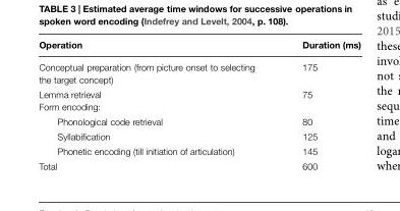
<table><thead><tr><td>Operation</td><td>Duration (ms)</td></tr></thead><tbody><tr><td>Conceptual preparation (from picture onset to selecting the target concept)</td><td>175</td></tr><tr><td>Lemma retrieval Form encoding:</td><td>75</td></tr><tr><td>Phonological code retrieval</td><td>80</td></tr><tr><td>Syllabification</td><td>125</td></tr><tr><td>Phonetic encoding (till initiation of articulation)</td><td>145</td></tr><tr><td>Total</td><td>600</td></tr></tbody></table>